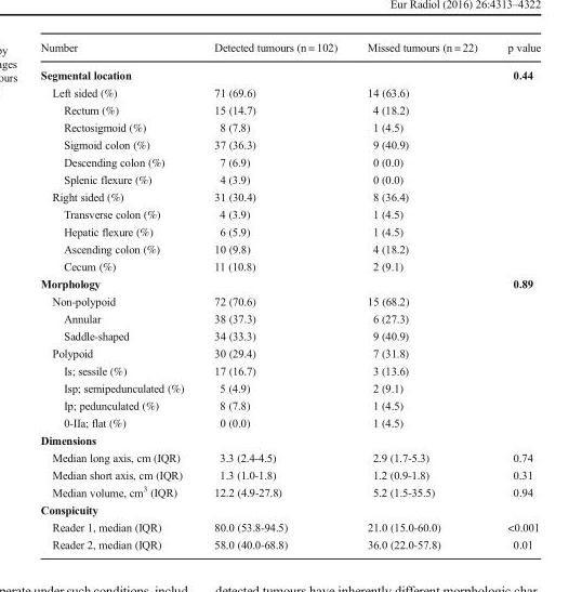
<table><thead><tr><td>Number</td><td>Detected tumours (n = 102)</td><td>Missed tumours (n = 22)</td><td>p value</td></tr></thead><tbody><tr><td>Segmental location</td><td></td><td></td><td>0.44</td></tr><tr><td>Left sided (%)</td><td>71 (69.6)</td><td>14 (63.6)</td><td></td></tr><tr><td>Rectum (%)</td><td>15 (14.7)</td><td>4 (18.2)</td><td></td></tr><tr><td>Rectosigmoid (%)</td><td>8 (7.8)</td><td>1 (4.5)</td><td></td></tr><tr><td>Sigmoid colon (%)</td><td>37 (36.3)</td><td>9 (40.9)</td><td></td></tr><tr><td>Descending colon (%)</td><td>7 (6.9)</td><td>0 (0.0)</td><td></td></tr><tr><td>Splenic flexure (%)</td><td>4 (3.9)</td><td>0 (0.0)</td><td></td></tr><tr><td>Right sided (%)</td><td>31 (30.4)</td><td>8 (36.4)</td><td></td></tr><tr><td>Transverse colon (%)</td><td>4 (3.9)</td><td>1 (4.5)</td><td></td></tr><tr><td>Hepatic flexure (%)</td><td>6 (5.9)</td><td>1 (4.5)</td><td></td></tr><tr><td>Ascending colon (%)</td><td>10 (9.8)</td><td>4 (18.2)</td><td></td></tr><tr><td>Cecum (%)</td><td>11 (10.8)</td><td>2 (9.1)</td><td></td></tr><tr><td>Morphology</td><td></td><td></td><td>0.89</td></tr><tr><td>Non-polypoid</td><td>72 (70.6)</td><td>15 (68.2)</td><td></td></tr><tr><td>Annular</td><td>38 (37.3)</td><td>6 (27.3)</td><td></td></tr><tr><td>Saddle-shaped</td><td>34 (33.3)</td><td>9 (40.9)</td><td></td></tr><tr><td>Polypoid</td><td>30 (29.4)</td><td>7 (31.8)</td><td></td></tr><tr><td>Is; sessile (%)</td><td>17 (16.7)</td><td>3 (13.6)</td><td></td></tr><tr><td>Isp; semipedunculated (%)</td><td>5 (4.9)</td><td>2 (9.1)</td><td></td></tr><tr><td>Ip; pedunculated (%)</td><td>8 (7.8)</td><td>1 (4.5)</td><td></td></tr><tr><td>0-IIa; flat (%)</td><td>0 (0.0)</td><td>1 (4.5)</td><td></td></tr><tr><td colspan="4">Dimensions</td></tr><tr><td>Median long axis, cm (IQR)</td><td>3.3 (2.4-4.5)</td><td>2.9 (1.7-5.3)</td><td>0.74</td></tr><tr><td>Median short axis, cm (IQR)</td><td>1.3 (1.0-1.8)</td><td>1.2 (0.9-1.8)</td><td>0.31</td></tr><tr><td>Median volume, cm<sup>3</sup> (IQR)</td><td>12.2 (4.9-27.8)</td><td>5.2 (1.5-35.5)</td><td>0.94</td></tr><tr><td colspan="4">Conspicuity</td></tr><tr><td>Reader 1, median (IQR)</td><td>80.0 (53.8-94.5)</td><td>21.0 (15.0-60.0)</td><td>&lt;0.001</td></tr><tr><td>Reader 2, median (IQR)</td><td>58.0 (40.0-68.8)</td><td>36.0 (22.0-57.8)</td><td>0.01</td></tr></tbody></table>